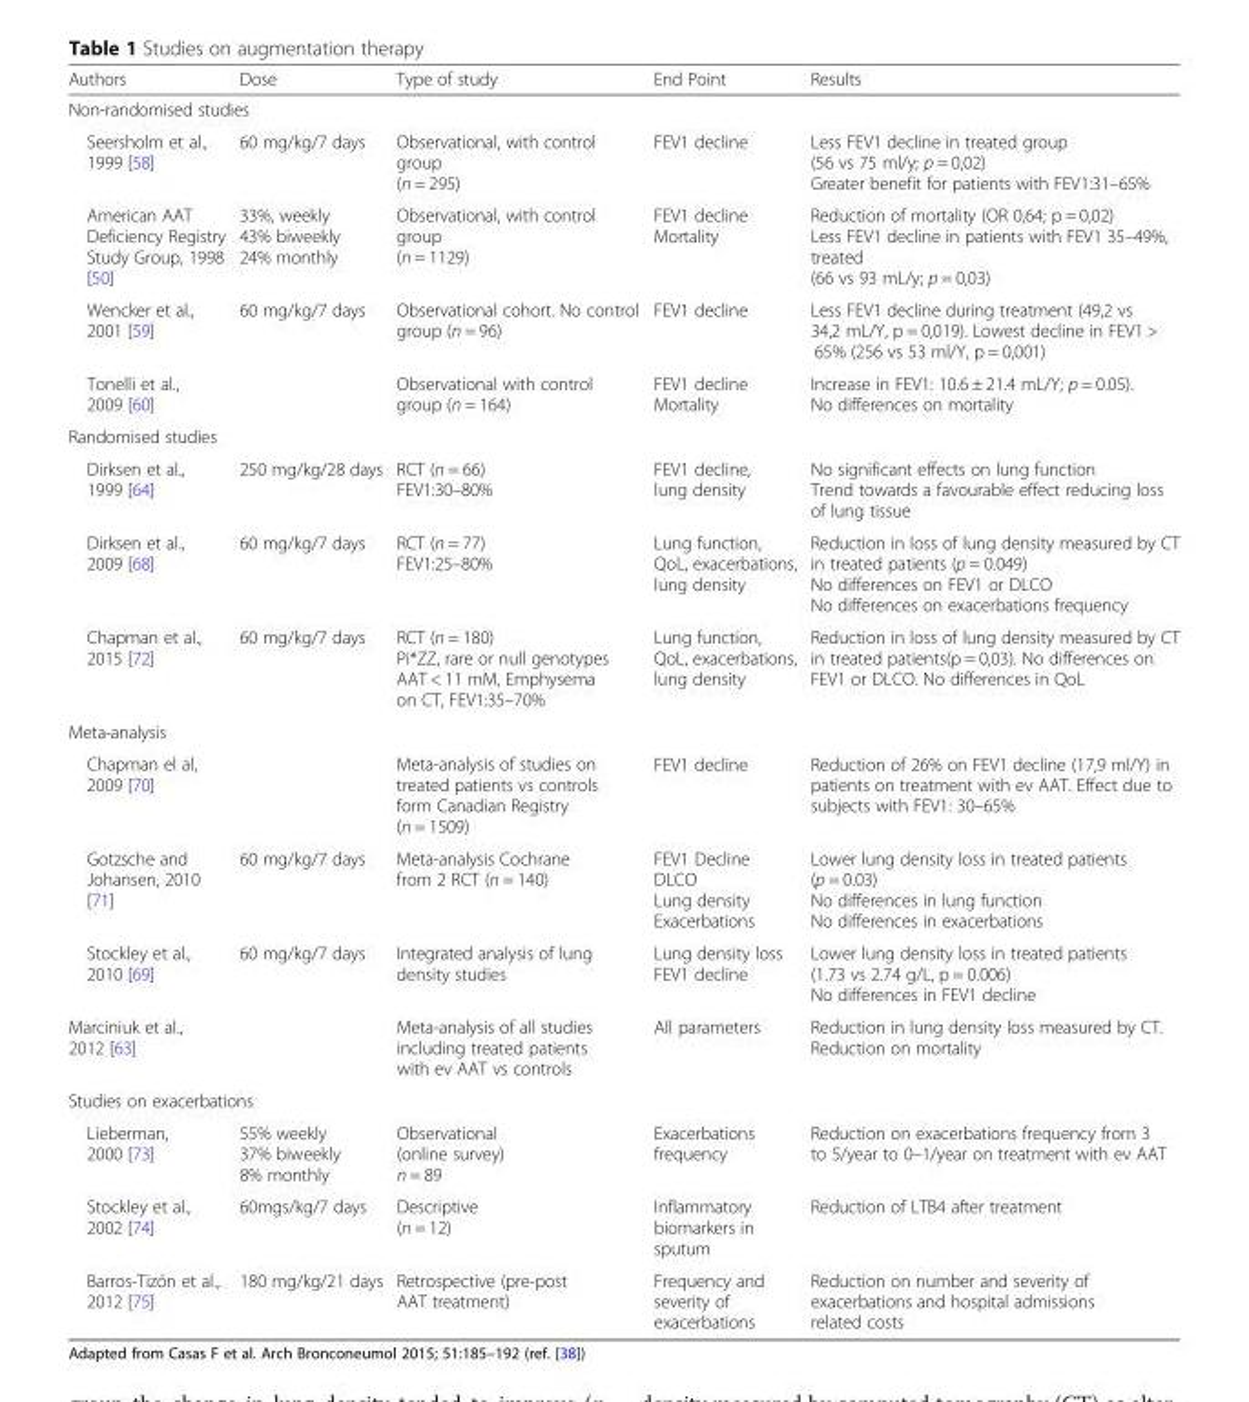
<table><thead><tr><td>Authors</td><td>Dose</td><td>Type of study</td><td>End Point</td><td>Results</td></tr></thead><tbody><tr><td colspan="5">Non-randomised studies</td></tr><tr><td>Seersholm et al., 1999 [58]</td><td>60 mg/kg/7 days</td><td>Observational, with control group (n = 295)</td><td>FEV1 decline</td><td>Less FEV1 decline in treated group (56 vs 75 ml/y; p = 0,02) Greater benefit for patients with FEV1:31–65%</td></tr><tr><td>American AAT Deficiency Registry Study Group, 1998 [50]</td><td>33%, weekly 43% biweekly 24% monthly</td><td>Observational, with control group (n = 1129)</td><td>FEV1 decline Mortality</td><td>Reduction of mortality (OR 0,64; p = 0,02) Less FEV1 decline in patients with FEV1 35–49%, treated (66 vs 93 mL/y; p = 0,03)</td></tr><tr><td>Wencker et al., 2001 [59]</td><td>60 mg/kg/7 days</td><td>Observational cohort. No control group (n = 96)</td><td>FEV1 decline</td><td>Less FEV1 decline during treatment (49,2 vs 34,2 mL/Y, p = 0,019). Lowest decline in FEV1 &gt; 65% (256 vs 53 ml/Y, p = 0,001)</td></tr><tr><td>Tonelli et al., 2009 [60]</td><td></td><td>Observational with control group (n = 164)</td><td>FEV1 decline Mortality</td><td>Increase in FEV1: 10.6 ± 21.4 mL/Y; p = 0.05). No differences on mortality</td></tr><tr><td colspan="5">Randomised studies</td></tr><tr><td>Dirksen et al., 1999 [64]</td><td>250 mg/kg/28 days</td><td>RCT (n = 66) FEV1:30–80%</td><td>FEV1 decline, lung density</td><td>No significant effects on lung function Trend towards a favourable effect reducing loss of lung tissue</td></tr><tr><td>Dirksen et al., 2009 [68]</td><td>60 mg/kg/7 days</td><td>RCT (n = 77) FEV1:25–80%</td><td>Lung function, QoL, exacerbations, lung density</td><td>Reduction in loss of lung density measured by CT in treated patients (p = 0.049) No differences on FEV1 or DLCO No differences on exacerbations frequency</td></tr><tr><td>Chapman et al., 2015 [72]</td><td>60 mg/kg/7 days</td><td>RCT (n = 180) Pi*ZZ, rare or null genotypes AAT &lt; 11 mM, Emphysema on CT, FEV1:35–70%</td><td>Lung function, QoL, exacerbations, lung density</td><td>Reduction in loss of lung density measured by CT in treated patients(p = 0,03). No differences on FEV1 or DLCO. No differences in QoL</td></tr><tr><td colspan="5">Meta-analysis</td></tr><tr><td>Chapman el al, 2009 [70]</td><td></td><td>Meta-analysis of studies on treated patients vs controls form Canadian Registry (n = 1509)</td><td>FEV1 decline</td><td>Reduction of 26% on FEV1 decline (17,9 ml/Y) in patients on treatment with ev AAT. Effect due to subjects with FEV1: 30–65%</td></tr><tr><td>Gotzsche and Johansen, 2010 [71]</td><td>60 mg/kg/7 days</td><td>Meta-analysis Cochrane from 2 RCT (n = 140)</td><td>FEV1 Decline DLCO Lung density Exacerbations</td><td>Lower lung density loss in treated patients (p = 0.03) No differences in lung function No differences in exacerbations</td></tr><tr><td>Stockley et al., 2010 [69]</td><td>60 mg/kg/7 days</td><td>Integrated analysis of lung density studies</td><td>Lung density loss FEV1 decline</td><td>Lower lung density loss in treated patients (1.73 vs 2.74 g/L, p = 0.006) No differences in FEV1 decline</td></tr><tr><td>Marciniuk et al., 2012 [63]</td><td></td><td>Meta-analysis of all studies including treated patients with ev AAT vs controls</td><td>All parameters</td><td>Reduction in lung density loss measured by CT. Reduction on mortality</td></tr><tr><td colspan="5">Studies on exacerbations</td></tr><tr><td>Lieberman, 2000 [73]</td><td>55% weekly 37% biweekly 8% monthly</td><td>Observational (online survey) n = 89</td><td>Exacerbations frequency</td><td>Reduction on exacerbations frequency from 3 to 5/year to 0–1/year on treatment with ev AAT</td></tr><tr><td>Stockley et al., 2002 [74]</td><td>60mgs/kg/7 days</td><td>Descriptive (n = 12)</td><td>Inflammatory biomarkers in sputum</td><td>Reduction of LTB4 after treatment</td></tr><tr><td>Barros-Tizón et al., 2012 [75]</td><td>180 mg/kg/21 days</td><td>Retrospective (pre-post AAT treatment)</td><td>Frequency and severity of exacerbations</td><td>Reduction on number and severity of exacerbations and hospital admissions related costs</td></tr></tbody></table>